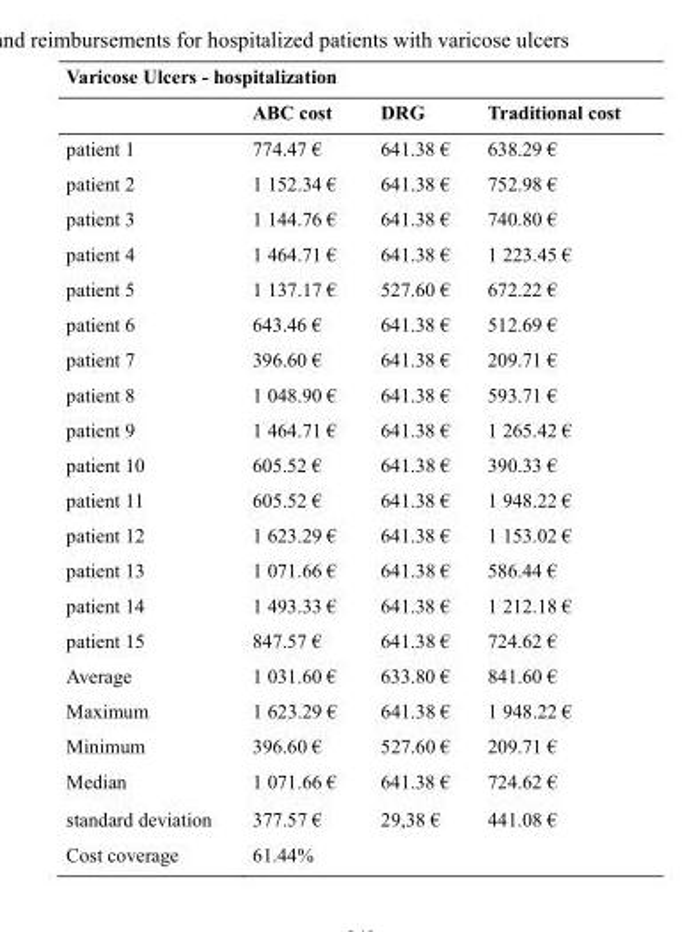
<table><thead><tr><td colspan="4">Varicose Ulcers - hospitalization</td></tr><tr><td></td><td>ABC cost</td><td>DRG</td><td>Traditional cost</td></tr></thead><tbody><tr><td>patient 1</td><td>774.47 €</td><td>641.38 €</td><td>638.29 €</td></tr><tr><td>patient 2</td><td>1 152.34 €</td><td>641.38 €</td><td>752.98 €</td></tr><tr><td>patient 3</td><td>1 144.76 €</td><td>641.38 €</td><td>740.80 €</td></tr><tr><td>patient 4</td><td>1 464.71 €</td><td>641.38 €</td><td>1 223.45 €</td></tr><tr><td>patient 5</td><td>1 137.17 €</td><td>527.60 €</td><td>672.22 €</td></tr><tr><td>patient 6</td><td>643.46 €</td><td>641.38 €</td><td>512.69 €</td></tr><tr><td>patient 7</td><td>396.60 €</td><td>641.38 €</td><td>209.71 €</td></tr><tr><td>patient 8</td><td>1 048.90 €</td><td>641.38 €</td><td>593.71 €</td></tr><tr><td>patient 9</td><td>1 464.71 €</td><td>641.38 €</td><td>1 265.42 €</td></tr><tr><td>patient 10</td><td>605.52 €</td><td>641.38 €</td><td>390.33 €</td></tr><tr><td>patient 11</td><td>605.52 €</td><td>641.38 €</td><td>1 948.22 €</td></tr><tr><td>patient 12</td><td>1 623.29 €</td><td>641.38 €</td><td>1 153.02 €</td></tr><tr><td>patient 13</td><td>1 071.66 €</td><td>641.38 €</td><td>586.44 €</td></tr><tr><td>patient 14</td><td>1 493.33 €</td><td>641.38 €</td><td>1 212.18 €</td></tr><tr><td>patient 15</td><td>847.57 €</td><td>641.38 €</td><td>724.62 €</td></tr><tr><td>Average</td><td>1 031.60 €</td><td>633.80 €</td><td>841.60 €</td></tr><tr><td>Maximum</td><td>1 623.29 €</td><td>641.38 €</td><td>1 948.22 €</td></tr><tr><td>Minimum</td><td>396.60 €</td><td>527.60 €</td><td>209.71 €</td></tr><tr><td>Median</td><td>1 071.66 €</td><td>641.38 €</td><td>724.62 €</td></tr><tr><td>standard deviation</td><td>377.57 €</td><td>29,38 €</td><td>441.08 €</td></tr><tr><td>Cost coverage</td><td colspan="3">61.44%</td></tr></tbody></table>